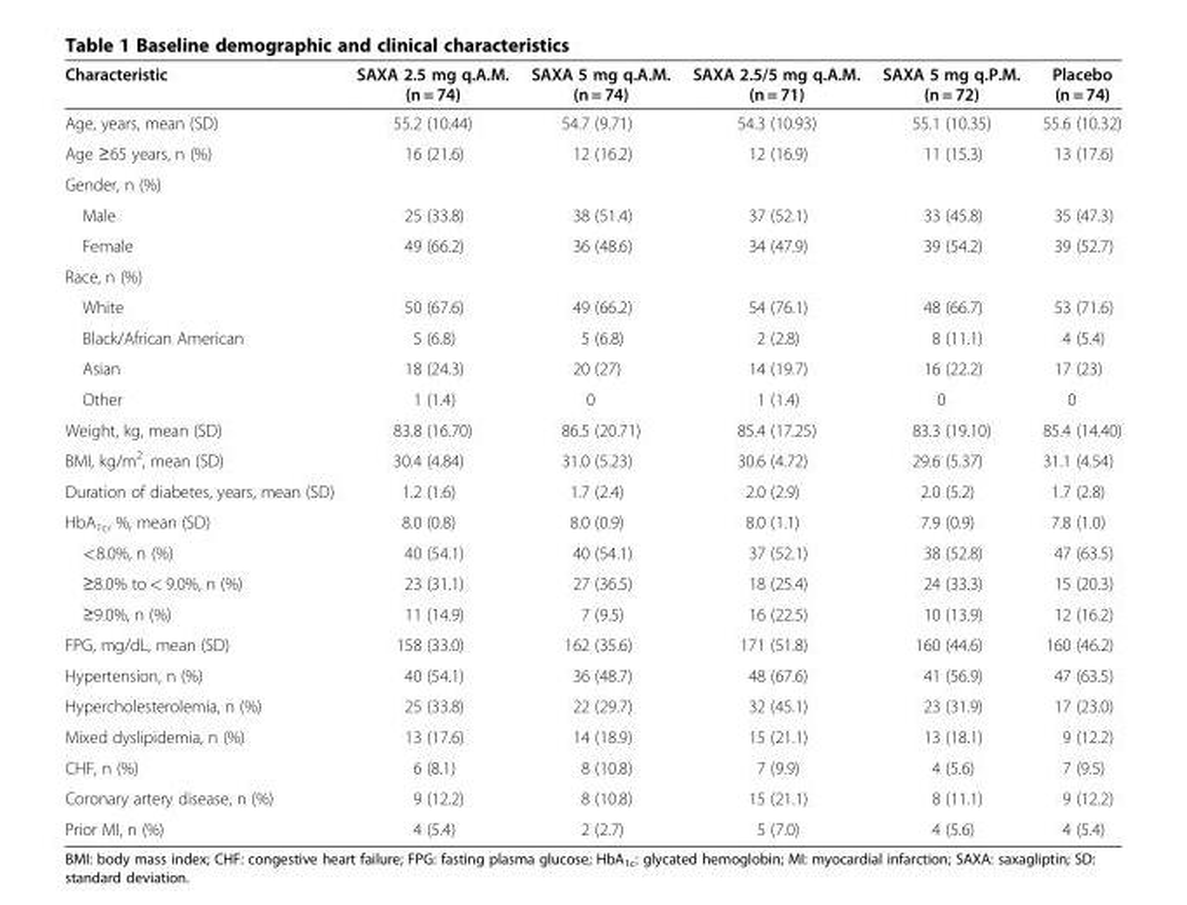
<table><thead><tr><td>Characteristic</td><td>SAXA 2.5 mg q.A.M. (n = 74)</td><td>SAXA 5 mg q.A.M. (n = 74)</td><td>SAXA 2.5/5 mg q.A.M. (n = 71)</td><td>SAXA 5 mg q.P.M. (n = 72)</td><td>Placebo (n = 74)</td></tr></thead><tbody><tr><td>Age, years, mean (SD)</td><td>55.2 (10.44)</td><td>54.7 (9.71)</td><td>54.3 (10.93)</td><td>55.1 (10.35)</td><td>55.6 (10.32)</td></tr><tr><td>Age ≥65 years, n (%)</td><td>16 (21.6)</td><td>12 (16.2)</td><td>12 (16.9)</td><td>11 (15.3)</td><td>13 (17.6)</td></tr><tr><td colspan="6">Gender, n (%)</td></tr><tr><td>Male</td><td>25 (33.8)</td><td>38 (51.4)</td><td>37 (52.1)</td><td>33 (45.8)</td><td>35 (47.3)</td></tr><tr><td>Female</td><td>49 (66.2)</td><td>36 (48.6)</td><td>34 (47.9)</td><td>39 (54.2)</td><td>39 (52.7)</td></tr><tr><td colspan="6">Race, n (%)</td></tr><tr><td>White</td><td>50 (67.6)</td><td>49 (66.2)</td><td>54 (76.1)</td><td>48 (66.7)</td><td>53 (71.6)</td></tr><tr><td>Black/African American</td><td>5 (6.8)</td><td>5 (6.8)</td><td>2 (2.8)</td><td>8 (11.1)</td><td>4 (5.4)</td></tr><tr><td>Asian</td><td>18 (24.3)</td><td>20 (27)</td><td>14 (19.7)</td><td>16 (22.2)</td><td>17 (23)</td></tr><tr><td>Other</td><td>1 (1.4)</td><td>0</td><td>1 (1.4)</td><td>0</td><td>0</td></tr><tr><td>Weight, kg, mean (SD)</td><td>83.8 (16.70)</td><td>86.5 (20.71)</td><td>85.4 (17.25)</td><td>83.3 (19.10)</td><td>85.4 (14.40)</td></tr><tr><td>BMI, kg/m<sup>2</sup>, mean (SD)</td><td>30.4 (4.84)</td><td>31.0 (5.23)</td><td>30.6 (4.72)</td><td>29.6 (5.37)</td><td>31.1 (4.54)</td></tr><tr><td>Duration of diabetes, years, mean (SD)</td><td>1.2 (1.6)</td><td>1.7 (2.4)</td><td>2.0 (2.9)</td><td>2.0 (5.2)</td><td>1.7 (2.8)</td></tr><tr><td>HbA<sub>1c</sub>, %, mean (SD)</td><td>8.0 (0.8)</td><td>8.0 (0.9)</td><td>8.0 (1.1)</td><td>7.9 (0.9)</td><td>7.8 (1.0)</td></tr><tr><td>&lt;8.0%, n (%)</td><td>40 (54.1)</td><td>40 (54.1)</td><td>37 (52.1)</td><td>38 (52.8)</td><td>47 (63.5)</td></tr><tr><td>≥8.0% to &lt; 9.0%, n (%)</td><td>23 (31.1)</td><td>27 (36.5)</td><td>18 (25.4)</td><td>24 (33.3)</td><td>15 (20.3)</td></tr><tr><td>≥9.0%, n (%)</td><td>11 (14.9)</td><td>7 (9.5)</td><td>16 (22.5)</td><td>10 (13.9)</td><td>12 (16.2)</td></tr><tr><td>FPG, mg/dL, mean (SD)</td><td>158 (33.0)</td><td>162 (35.6)</td><td>171 (51.8)</td><td>160 (44.6)</td><td>160 (46.2)</td></tr><tr><td>Hypertension, n (%)</td><td>40 (54.1)</td><td>36 (48.7)</td><td>48 (67.6)</td><td>41 (56.9)</td><td>47 (63.5)</td></tr><tr><td>Hypercholesterolemia, n (%)</td><td>25 (33.8)</td><td>22 (29.7)</td><td>32 (45.1)</td><td>23 (31.9)</td><td>17 (23.0)</td></tr><tr><td>Mixed dyslipidemia, n (%)</td><td>13 (17.6)</td><td>14 (18.9)</td><td>15 (21.1)</td><td>13 (18.1)</td><td>9 (12.2)</td></tr><tr><td>CHF, n (%)</td><td>6 (8.1)</td><td>8 (10.8)</td><td>7 (9.9)</td><td>4 (5.6)</td><td>7 (9.5)</td></tr><tr><td>Coronary artery disease, n (%)</td><td>9 (12.2)</td><td>8 (10.8)</td><td>15 (21.1)</td><td>8 (11.1)</td><td>9 (12.2)</td></tr><tr><td>Prior MI, n (%)</td><td>4 (5.4)</td><td>2 (2.7)</td><td>5 (7.0)</td><td>4 (5.6)</td><td>4 (5.4)</td></tr></tbody></table>